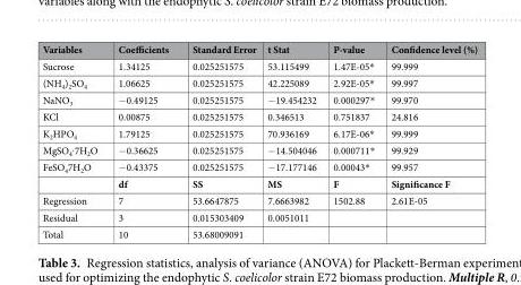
<table><thead><tr><td>Variables</td><td>Coefficients</td><td>Standard Error</td><td>t Stat</td><td>P-value</td><td>Confidence level (%)</td></tr></thead><tbody><tr><td>Sucrose</td><td>1.34125</td><td>0.025251575</td><td>53.115499</td><td>1.47E-05*</td><td>99.999</td></tr><tr><td>(NH<sub>4</sub>)<sub>2</sub>SO<sub>4</sub></td><td>1.06625</td><td>0.025251575</td><td>42.225089</td><td>2.92E-05*</td><td>99.997</td></tr><tr><td>NaNO<sub>3</sub></td><td>−0.49125</td><td>0.025251575</td><td>−19.454232</td><td>0.000297*</td><td>99.970</td></tr><tr><td>KCl</td><td>0.00875</td><td>0.025251575</td><td>0.346513</td><td>0.751837</td><td>24.816</td></tr><tr><td>K<sub>2</sub>HPO<sub>4</sub></td><td>1.79125</td><td>0.025251575</td><td>70.936169</td><td>6.17E-06*</td><td>99.999</td></tr><tr><td>MgSO<sub>4</sub>·7H<sub>2</sub>O</td><td>−0.36625</td><td>0.025251575</td><td>−14.504046</td><td>0.000711*</td><td>99.929</td></tr><tr><td rowspan="2">FeSO<sub>4</sub>7H<sub>2</sub>O</td><td>−0.43375</td><td>0.025251575</td><td>−17.177146</td><td>0.00043*</td><td>99.957</td></tr><tr><td>df</td><td>SS</td><td>MS</td><td>F</td><td>Significance F</td></tr><tr><td>Regression</td><td>7</td><td>53.6647875</td><td>7.6663982</td><td>1502.88</td><td>2.61E-05</td></tr><tr><td>Residual</td><td>3</td><td>0.015303409</td><td>0.0051011</td><td></td><td></td></tr><tr><td>Total</td><td>10</td><td>53.68009091</td><td></td><td></td><td></td></tr></tbody></table>